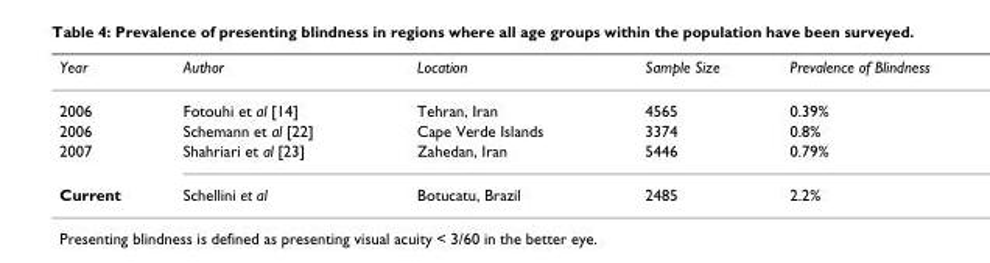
<table><thead><tr><td>Year</td><td>Author</td><td>Location</td><td>Sample Size</td><td>Prevalence of Blindness</td></tr></thead><tbody><tr><td>2006</td><td>Fotouhi et al [14]</td><td>Tehran, Iran</td><td>4565</td><td>0.39%</td></tr><tr><td>2006</td><td>Schemann et al [22]</td><td>Cape Verde Islands</td><td>3374</td><td>0.8%</td></tr><tr><td>2007</td><td>Shahriari et al [23]</td><td>Zahedan, Iran</td><td>5446</td><td>0.79%</td></tr><tr><td>Current</td><td>Schellini et al</td><td>Botucatu, Brazil</td><td>2485</td><td>2.2%</td></tr></tbody></table>